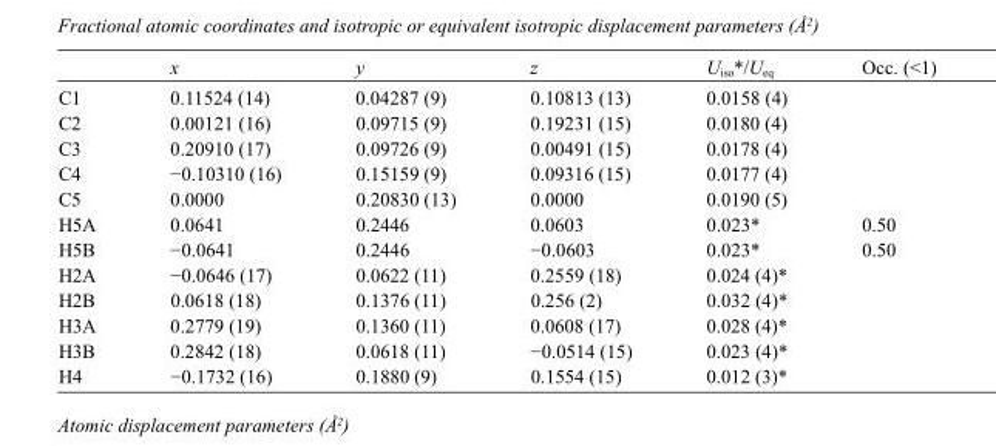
<table><thead><tr><td></td><td>x</td><td>y</td><td>z</td><td>U<sub>iso</sub>*/U<sub>eq</sub></td><td>Occ. (&lt;1)</td></tr></thead><tbody><tr><td>C1</td><td>0.11524 (14)</td><td>0.04287 (9)</td><td>0.10813 (13)</td><td>0.0158 (4)</td><td></td></tr><tr><td>C2</td><td>0.00121 (16)</td><td>0.09715 (9)</td><td>0.19231 (15)</td><td>0.0180 (4)</td><td></td></tr><tr><td>C3</td><td>0.20910 (17)</td><td>0.09726 (9)</td><td>0.00491 (15)</td><td>0.0178 (4)</td><td></td></tr><tr><td>C4</td><td>−0.10310 (16)</td><td>0.15159 (9)</td><td>0.09316 (15)</td><td>0.0177 (4)</td><td></td></tr><tr><td>C5</td><td>0.0000</td><td>0.20830 (13)</td><td>0.0000</td><td>0.0190 (5)</td><td></td></tr><tr><td>H5A</td><td>0.0641</td><td>0.2446</td><td>0.0603</td><td>0.023*</td><td>0.50</td></tr><tr><td>H5B</td><td>−0.0641</td><td>0.2446</td><td>−0.0603</td><td>0.023*</td><td>0.50</td></tr><tr><td>H2A</td><td>−0.0646 (17)</td><td>0.0622 (11)</td><td>0.2559 (18)</td><td>0.024 (4)*</td><td></td></tr><tr><td>H2B</td><td>0.0618 (18)</td><td>0.1376 (11)</td><td>0.256 (2)</td><td>0.032 (4)*</td><td></td></tr><tr><td>H3A</td><td>0.2779 (19)</td><td>0.1360 (11)</td><td>0.0608 (17)</td><td>0.028 (4)*</td><td></td></tr><tr><td>H3B</td><td>0.2842 (18)</td><td>0.0618 (11)</td><td>−0.0514 (15)</td><td>0.023 (4)*</td><td></td></tr><tr><td>H4</td><td>−0.1732 (16)</td><td>0.1880 (9)</td><td>0.1554 (15)</td><td>0.012 (3)*</td><td></td></tr></tbody></table>